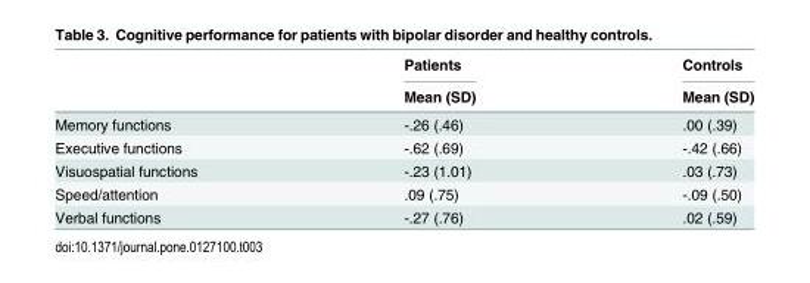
<table><thead><tr><td rowspan="2"></td><td rowspan="2">Patients Mean (SD)</td><td rowspan="2">Controls Mean (SD)</td></tr><tr></tr></thead><tbody><tr><td>Memory functions</td><td>-.26 (.46)</td><td>.00 (.39)</td></tr><tr><td>Executive functions</td><td>-.62 (.69)</td><td>-.42 (.66)</td></tr><tr><td>Visuospatial functions</td><td>-.23 (1.01)</td><td>.03 (.73)</td></tr><tr><td>Speed/attention</td><td>.09 (.75)</td><td>-.09 (.50)</td></tr><tr><td>Verbal functions</td><td>-.27 (.76)</td><td>.02 (.59)</td></tr></tbody></table>